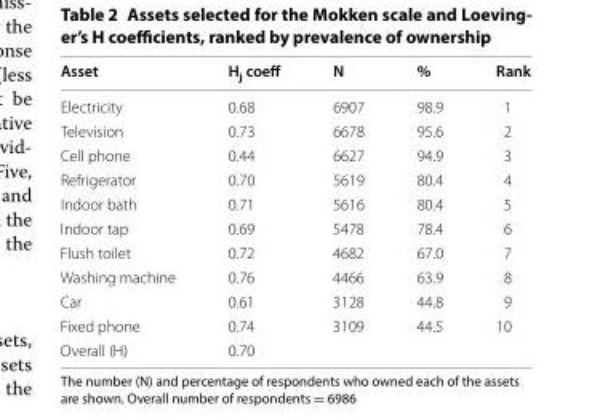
<table><thead><tr><td>Asset</td><td>H<sub>j</sub> coeff</td><td>N</td><td>%</td><td>Rank</td></tr></thead><tbody><tr><td>Electricity</td><td>0.68</td><td>6907</td><td>98.9</td><td>1</td></tr><tr><td>Television</td><td>0.73</td><td>6678</td><td>95.6</td><td>2</td></tr><tr><td>Cell phone</td><td>0.44</td><td>6627</td><td>94.9</td><td>3</td></tr><tr><td>Refrigerator</td><td>0.70</td><td>5619</td><td>80.4</td><td>4</td></tr><tr><td>Indoor bath</td><td>0.71</td><td>5616</td><td>80.4</td><td>5</td></tr><tr><td>Indoor tap</td><td>0.69</td><td>5478</td><td>78.4</td><td>6</td></tr><tr><td>Flush toilet</td><td>0.72</td><td>4682</td><td>67.0</td><td>7</td></tr><tr><td>Washing machine</td><td>0.76</td><td>4466</td><td>63.9</td><td>8</td></tr><tr><td>Car</td><td>0.61</td><td>3128</td><td>44.8</td><td>9</td></tr><tr><td>Fixed phone</td><td>0.74</td><td>3109</td><td>44.5</td><td>10</td></tr><tr><td>Overall (H)</td><td>0.70</td><td></td><td></td><td></td></tr></tbody></table>